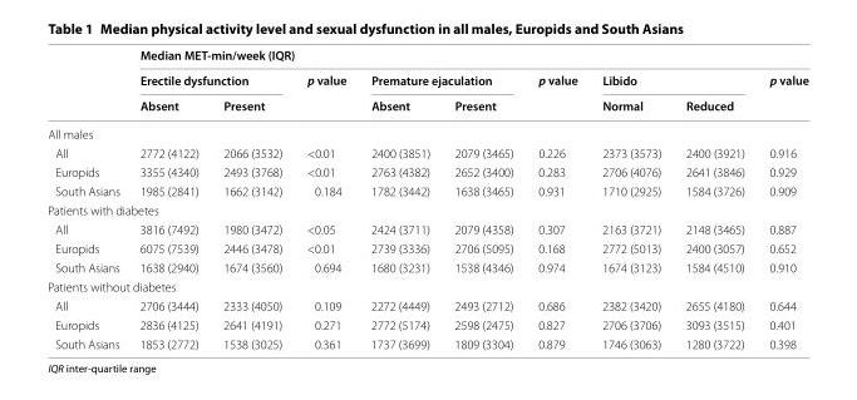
<table><thead><tr><td rowspan="3"></td><td colspan="9">Median MET-min/week (IQR)</td></tr><tr><td colspan="2">Erectile dysfunction</td><td rowspan="2">p value</td><td colspan="2">Premature ejaculation</td><td rowspan="2">p value</td><td colspan="2">Libido</td><td rowspan="2">p value</td></tr><tr><td>Absent</td><td>Present</td><td>Absent</td><td>Present</td><td>Normal</td><td>Reduced</td></tr></thead><tbody><tr><td colspan="10">All males</td></tr><tr><td>All</td><td>2772 (4122)</td><td>2066 (3532)</td><td>&lt;0.01</td><td>2400 (3851)</td><td>2079 (3465)</td><td>0.226</td><td>2373 (3573)</td><td>2400 (3921)</td><td>0.916</td></tr><tr><td>Europids</td><td>3355 (4340)</td><td>2493 (3768)</td><td>&lt;0.01</td><td>2763 (4382)</td><td>2652 (3400)</td><td>0.283</td><td>2706 (4076)</td><td>2641 (3846)</td><td>0.929</td></tr><tr><td>South Asians</td><td>1985 (2841)</td><td>1662 (3142)</td><td>0.184</td><td>1782 (3442)</td><td>1638 (3465)</td><td>0.931</td><td>1710 (2925)</td><td>1584 (3726)</td><td>0.909</td></tr><tr><td colspan="10">Patients with diabetes</td></tr><tr><td>All</td><td>3816 (7492)</td><td>1980 (3472)</td><td>&lt;0.05</td><td>2424 (3711)</td><td>2079 (4358)</td><td>0.307</td><td>2163 (3721)</td><td>2148 (3465)</td><td>0.887</td></tr><tr><td>Europids</td><td>6075 (7539)</td><td>2446 (3478)</td><td>&lt;0.01</td><td>2739 (3336)</td><td>2706 (5095)</td><td>0.168</td><td>2772 (5013)</td><td>2400 (3057)</td><td>0.652</td></tr><tr><td>South Asians</td><td>1638 (2940)</td><td>1674 (3560)</td><td>0.694</td><td>1680 (3231)</td><td>1538 (4346)</td><td>0.974</td><td>1674 (3123)</td><td>1584 (4510)</td><td>0.910</td></tr><tr><td colspan="10">Patients without diabetes</td></tr><tr><td>All</td><td>2706 (3444)</td><td>2333 (4050)</td><td>0.109</td><td>2272 (4449)</td><td>2493 (2712)</td><td>0.686</td><td>2382 (3420)</td><td>2655 (4180)</td><td>0.644</td></tr><tr><td>Europids</td><td>2836 (4125)</td><td>2641 (4191)</td><td>0.271</td><td>2772 (5174)</td><td>2598 (2475)</td><td>0.827</td><td>2706 (3706)</td><td>3093 (3515)</td><td>0.401</td></tr><tr><td>South Asians</td><td>1853 (2772)</td><td>1538 (3025)</td><td>0.361</td><td>1737 (3699)</td><td>1809 (3304)</td><td>0.879</td><td>1746 (3063)</td><td>1280 (3722)</td><td>0.398</td></tr></tbody></table>